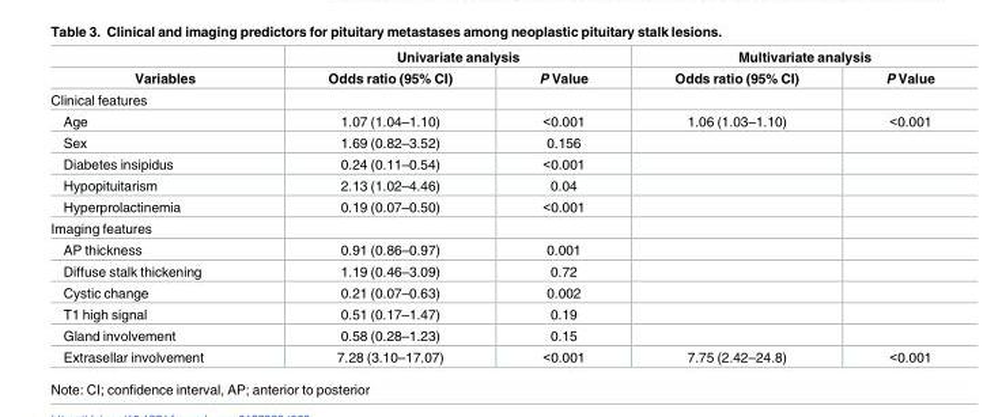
<table><thead><tr><td rowspan="2">Variables</td><td colspan="2">Univariate analysis</td><td colspan="2">Multivariate analysis</td></tr><tr><td>Odds ratio (95% CI)</td><td>P Value</td><td>Odds ratio (95% CI)</td><td>P Value</td></tr></thead><tbody><tr><td colspan="5">Clinical features</td></tr><tr><td>Age</td><td>1.07 (1.04–1.10)</td><td>&lt;0.001</td><td>1.06 (1.03–1.10)</td><td>&lt;0.001</td></tr><tr><td>Sex</td><td>1.69 (0.82–3.52)</td><td>0.156</td><td></td><td></td></tr><tr><td>Diabetes insipidus</td><td>0.24 (0.11–0.54)</td><td>&lt;0.001</td><td></td><td></td></tr><tr><td>Hypopituitarism</td><td>2.13 (1.02–4.46)</td><td>0.04</td><td></td><td></td></tr><tr><td>Hyperprolactinemia</td><td>0.19 (0.07–0.50)</td><td>&lt;0.001</td><td></td><td></td></tr><tr><td colspan="5">Imaging features</td></tr><tr><td>AP thickness</td><td>0.91 (0.86–0.97)</td><td>0.001</td><td></td><td></td></tr><tr><td>Diffuse stalk thickening</td><td>1.19 (0.46–3.09)</td><td>0.72</td><td></td><td></td></tr><tr><td>Cystic change</td><td>0.21 (0.07–0.63)</td><td>0.002</td><td></td><td></td></tr><tr><td>T1 high signal</td><td>0.51 (0.17–1.47)</td><td>0.19</td><td></td><td></td></tr><tr><td>Gland involvement</td><td>0.58 (0.28–1.23)</td><td>0.15</td><td></td><td></td></tr><tr><td>Extrasellar involvement</td><td>7.28 (3.10–17.07)</td><td>&lt;0.001</td><td>7.75 (2.42–24.8)</td><td>&lt;0.001</td></tr></tbody></table>